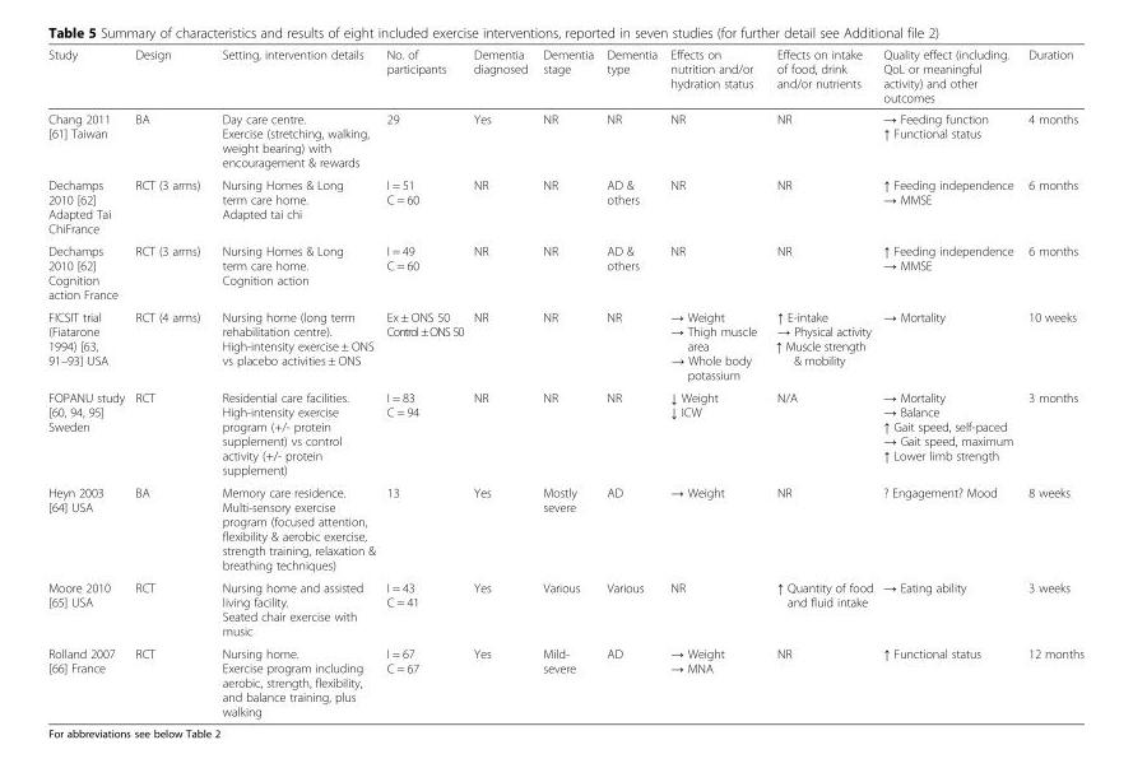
<table><thead><tr><td>Study</td><td>Design</td><td>Setting, intervention details</td><td>No. of participants</td><td>Dementia diagnosed</td><td>Dementia stage</td><td>Dementia type</td><td>Effects on nutrition and/or hydration status</td><td>Effects on intake of food, drink and/or nutrients</td><td>Quality effect (including. QoL or meaningful activity) and other outcomes</td><td>Duration</td></tr></thead><tbody><tr><td>Chang 2011 [61] Taiwan</td><td>BA</td><td>Day care centre. Exercise (stretching, walking, weight bearing) with encouragement &amp; rewards</td><td>29</td><td>Yes</td><td>NR</td><td>NR</td><td>NR</td><td>NR</td><td>→ Feeding function ↑ Functional status</td><td>4 months</td></tr><tr><td>Dechamps 2010 [62] Adapted Tai ChiFrance</td><td>RCT (3 arms)</td><td>Nursing Homes &amp; Long term care home. Adapted tai chi</td><td>I = 51 C = 60</td><td>NR</td><td>NR</td><td>AD &amp; others</td><td>NR</td><td>NR</td><td>↑ Feeding independence → MMSE</td><td>6 months</td></tr><tr><td>Dechamps 2010 [62] Cognition action France</td><td>RCT (3 arms)</td><td>Nursing Homes &amp; Long term care home. Cognition action</td><td>I = 49 C = 60</td><td>NR</td><td>NR</td><td>AD &amp; others</td><td>NR</td><td>NR</td><td>↑ Feeding independence → MMSE</td><td>6 months</td></tr><tr><td>FICSIT trial (Fiatarone 1994) [63, 91–93] USA</td><td>RCT (4 arms)</td><td>Nursing home (long term rehabilitation centre). High-intensity exercise ± ONS vs placebo activities ± ONS</td><td>Ex ± ONS 50 Control±ONS 50</td><td>NR</td><td>NR</td><td>NR</td><td>→ Weight → Thigh muscle area → Whole body potassium</td><td>↑ E-intake → Physical activity ↑ Muscle strength &amp; mobility</td><td>→ Mortality</td><td>10 weeks</td></tr><tr><td>FOPANU study [60, 94, 95] Sweden</td><td>RCT</td><td>Residential care facilities. High-intensity exercise program (+/- protein supplement) vs control activity (+/- protein supplement)</td><td>I = 83 C = 94</td><td>NR</td><td>NR</td><td>NR</td><td>↓ Weight ↓ ICW</td><td>N/A</td><td>→ Mortality → Balance ↑ Gait speed, self-paced → Gait speed, maximum ↑ Lower limb strength</td><td>3 months</td></tr><tr><td>Heyn 2003 [64] USA</td><td>BA</td><td>Memory care residence. Multi-sensory exercise program (focused attention, flexibility &amp; aerobic exercise, strength training, relaxation &amp; breathing techniques)</td><td>13</td><td>Yes</td><td>Mostly severe</td><td>AD</td><td>→ Weight</td><td>NR</td><td>? Engagement? Mood</td><td>8 weeks</td></tr><tr><td>Moore 2010 [65] USA</td><td>RCT</td><td>Nursing home and assisted living facility. Seated chair exercise with music</td><td>I = 43 C = 41</td><td>Yes</td><td>Various</td><td>Various</td><td>NR</td><td>↑ Quantity of food and fluid intake</td><td>→ Eating ability</td><td>3 weeks</td></tr><tr><td>Rolland 2007 [66] France</td><td>RCT</td><td>Nursing home. Exercise program including aerobic, strength, flexibility, and balance training, plus walking</td><td>I = 67 C = 67</td><td>Yes</td><td>Mild- severe</td><td>AD</td><td>→ Weight → MNA</td><td>NR</td><td>↑ Functional status</td><td>12 months</td></tr></tbody></table>